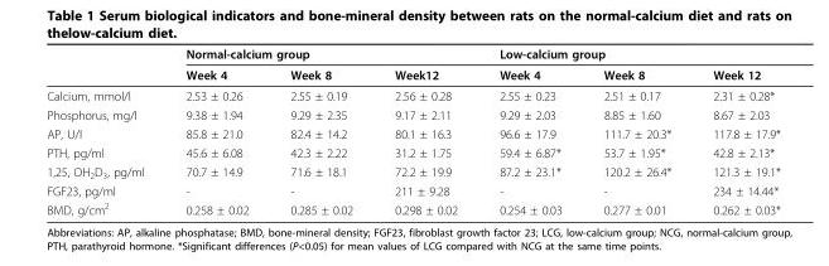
<table><thead><tr><td rowspan="2"></td><td colspan="3">Normal-calcium group</td><td colspan="3">Low-calcium group</td></tr><tr><td>Week 4</td><td>Week 8</td><td>Week12</td><td>Week 4</td><td>Week 8</td><td>Week 12</td></tr></thead><tbody><tr><td>Calcium, mmol/l</td><td>2.53 ± 0.26</td><td>2.55 ± 0.19</td><td>2.56 ± 0.28</td><td>2.55 ± 0.23</td><td>2.51 ± 0.17</td><td>2.31 ± 0.28*</td></tr><tr><td>Phosphorus, mg/l</td><td>9.38 ± 1.94</td><td>9.29 ± 2.35</td><td>9.17 ± 2.11</td><td>9.29 ± 2.03</td><td>8.85 ± 1.60</td><td>8.67 ± 2.03</td></tr><tr><td>AP, U/l</td><td>85.8 ± 21.0</td><td>82.4 ± 14.2</td><td>80.1 ± 16.3</td><td>96.6 ± 17.9</td><td>111.7 ± 20.3*</td><td>117.8 ± 17.9*</td></tr><tr><td>PTH, pg/ml</td><td>45.6 ± 6.08</td><td>42.3 ± 2.22</td><td>31.2 ± 1.75</td><td>59.4 ± 6.87*</td><td>53.7 ± 1.95*</td><td>42.8 ± 2.13*</td></tr><tr><td>1,25, OH<sub>2</sub>D<sub>3</sub>, pg/ml</td><td>70.7 ± 14.9</td><td>71.6 ± 18.1</td><td>72.2 ± 19.9</td><td>87.2 ± 23.1*</td><td>120.2 ± 26.4*</td><td>121.3 ± 19.1*</td></tr><tr><td>FGF23, pg/ml</td><td>-</td><td>-</td><td>211 ± 9.28</td><td>-</td><td>-</td><td>234 ± 14.44*</td></tr><tr><td>BMD, g/cm<sup>2</sup></td><td>0.258 ± 0.02</td><td>0.285 ± 0.02</td><td>0.298 ± 0.02</td><td>0.254 ± 0.03</td><td>0.277 ± 0.01</td><td>0.262 ± 0.03*</td></tr></tbody></table>